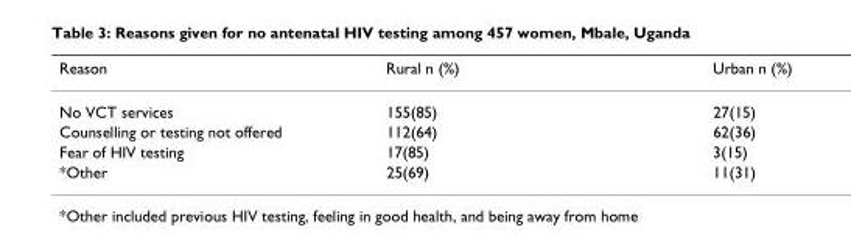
<table><thead><tr><td>Reason</td><td>Rural n (%)</td><td>Urban n (%)</td></tr></thead><tbody><tr><td>No VCT services</td><td>155(85)</td><td>27(15)</td></tr><tr><td>Counselling or testing not offered</td><td>112(64)</td><td>62(36)</td></tr><tr><td>Fear of HIV testing</td><td>17(85)</td><td>3(15)</td></tr><tr><td>*Other</td><td>25(69)</td><td>11(31)</td></tr></tbody></table>